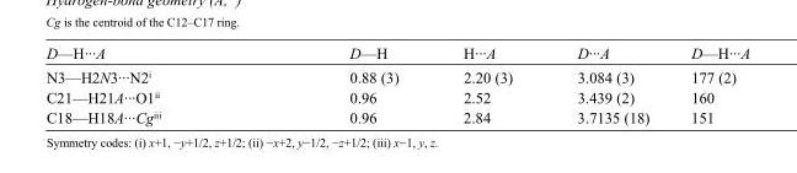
<table><tbody><tr><td>D—H···A</td><td>D—H</td><td>H···A</td><td>D···A</td><td>D—H···A</td></tr><tr><td>N3—H2N3···N2<sup>i</sup></td><td>0.88 (3)</td><td>2.20 (3)</td><td>3.084 (3)</td><td>177 (2)</td></tr><tr><td>C21—H21A···O1<sup>ii</sup></td><td>0.96</td><td>2.52</td><td>3.439 (2)</td><td>160</td></tr><tr><td>C18—H18A···Cg<sup>iii</sup></td><td>0.96</td><td>2.84</td><td>3.7135 (18)</td><td>151</td></tr></tbody></table>